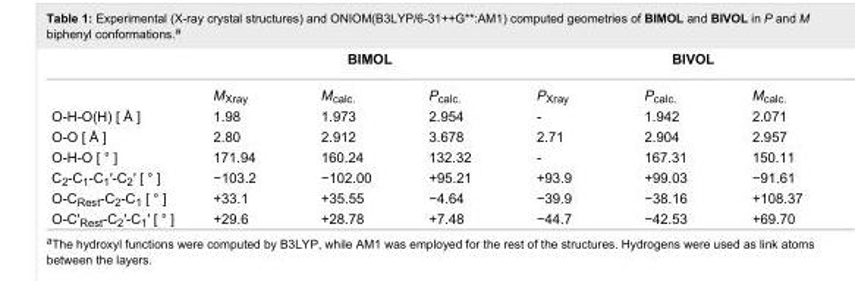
<table><thead><tr><td rowspan="2"></td><td colspan="3">BIMOL</td><td colspan="3">BIVOL</td></tr><tr><td>M<sub>Xray</sub></td><td>M<sub>calc.</sub></td><td>P<sub>calc.</sub></td><td>P<sub>Xray</sub></td><td>P<sub>calc.</sub></td><td>M<sub>calc.</sub></td></tr></thead><tbody><tr><td>O-H-O(H) [ Å ]</td><td>1.98</td><td>1.973</td><td>2.954</td><td>-</td><td>1.942</td><td>2.071</td></tr><tr><td>O-O [ Å ]</td><td>2.80</td><td>2.912</td><td>3.678</td><td>2.71</td><td>2.904</td><td>2.957</td></tr><tr><td>O-H-O [ ° ]</td><td>171.94</td><td>160.24</td><td>132.32</td><td>-</td><td>167.31</td><td>150.11</td></tr><tr><td>C<sub>2</sub>-C<sub>1</sub>-C<sub>1</sub>′-C<sub>2</sub>′ [ ° ]</td><td>−103.2</td><td>−102.00</td><td>+95.21</td><td>+93.9</td><td>+99.03</td><td>−91.61</td></tr><tr><td>O-C<sub>Rest</sub>-C<sub>2</sub>-C<sub>1</sub> [ ° ]</td><td>+33.1</td><td>+35.55</td><td>−4.64</td><td>−39.9</td><td>−38.16</td><td>+108.37</td></tr><tr><td>O-C&#x27;<sub>Rest</sub>-C<sub>2</sub>′-C<sub>1</sub>′ [ ° ]</td><td>+29.6</td><td>+28.78</td><td>+7.48</td><td>−44.7</td><td>−42.53</td><td>+69.70</td></tr></tbody></table>